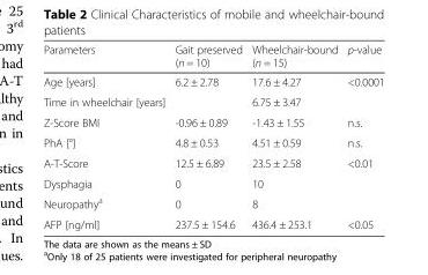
<table><thead><tr><td>Parameters</td><td>Gait preserved (n = 10)</td><td>Wheelchair-bound (n = 15)</td><td>p-value</td></tr></thead><tbody><tr><td>Age [years]</td><td>6.2 ± 2.78</td><td>17.6 ± 4.27</td><td>&lt;0.0001</td></tr><tr><td>Time in wheelchair [years]</td><td></td><td>6.75 ± 3.47</td><td></td></tr><tr><td>Z-Score BMI</td><td>-0.96 ± 0.89</td><td>-1.43 ± 1.55</td><td>n.s.</td></tr><tr><td>PhA [°]</td><td>4.8 ± 0.53</td><td>4.51 ± 0.59</td><td>n.s.</td></tr><tr><td>A-T-Score</td><td>12.5 ± 6.89</td><td>23.5 ± 2.58</td><td>&lt;0.01</td></tr><tr><td>Dysphagia</td><td>0</td><td>10</td><td rowspan="2"></td></tr><tr><td>Neuropathy<sup>a</sup></td><td>0</td><td>8</td></tr><tr><td>AFP [ng/ml]</td><td>237.5 ± 154.6</td><td>436.4 ± 253.1</td><td>&lt;0.05</td></tr></tbody></table>